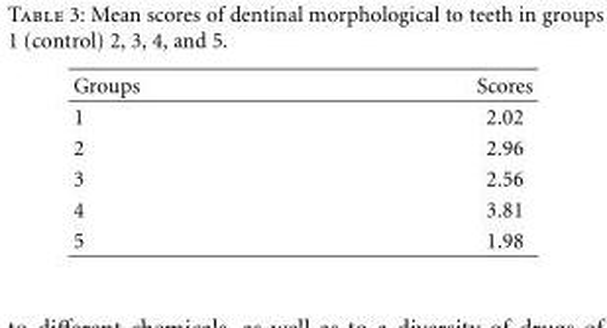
<table><thead><tr><td>Groups</td><td>Scores</td></tr></thead><tbody><tr><td>1</td><td>2.02</td></tr><tr><td>2</td><td>2.96</td></tr><tr><td>3</td><td>2.56</td></tr><tr><td>4</td><td>3.81</td></tr><tr><td>5</td><td>1.98</td></tr></tbody></table>